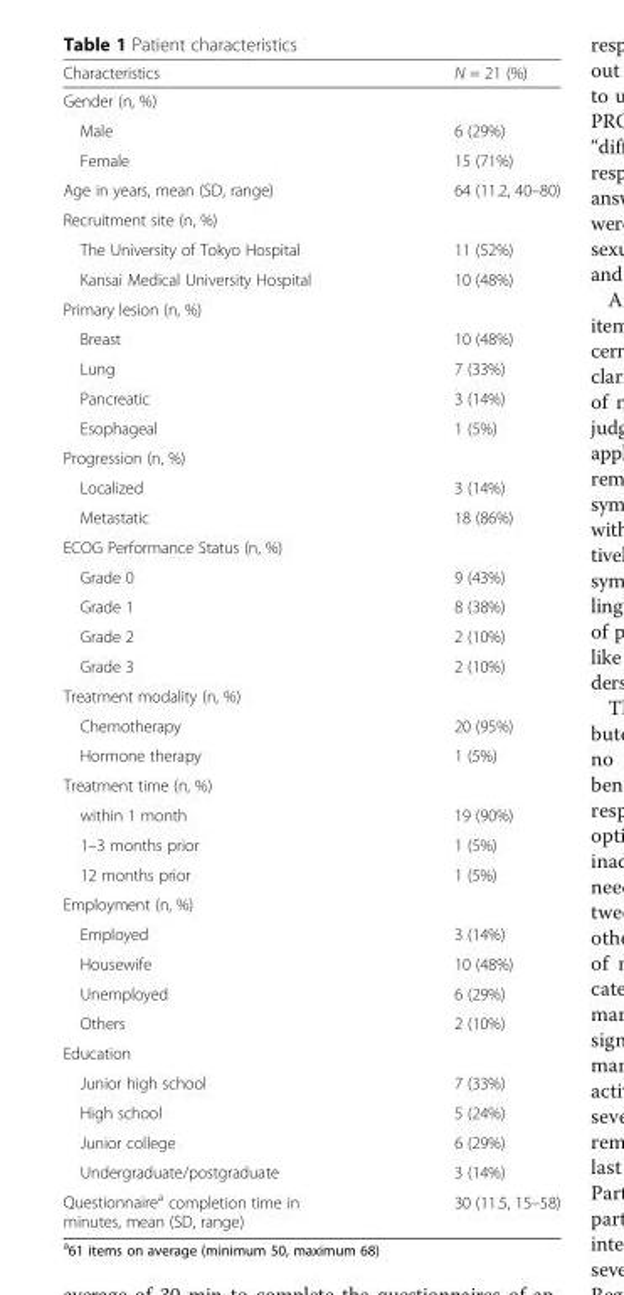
<table><thead><tr><td>Characteristics</td><td>N = 21 (%)</td></tr></thead><tbody><tr><td colspan="2">Gender (n, %)</td></tr><tr><td>Male</td><td>6 (29%)</td></tr><tr><td>Female</td><td>15 (71%)</td></tr><tr><td>Age in years, mean (SD, range)</td><td>64 (11.2, 40–80)</td></tr><tr><td colspan="2">Recruitment site (n, %)</td></tr><tr><td>The University of Tokyo Hospital</td><td>11 (52%)</td></tr><tr><td>Kansai Medical University Hospital</td><td>10 (48%)</td></tr><tr><td colspan="2">Primary lesion (n, %)</td></tr><tr><td>Breast</td><td>10 (48%)</td></tr><tr><td>Lung</td><td>7 (33%)</td></tr><tr><td>Pancreatic</td><td>3 (14%)</td></tr><tr><td>Esophageal</td><td>1 (5%)</td></tr><tr><td colspan="2">Progression (n, %)</td></tr><tr><td>Localized</td><td>3 (14%)</td></tr><tr><td>Metastatic</td><td>18 (86%)</td></tr><tr><td colspan="2">ECOG Performance Status (n, %)</td></tr><tr><td>Grade 0</td><td>9 (43%)</td></tr><tr><td>Grade 1</td><td>8 (38%)</td></tr><tr><td>Grade 2</td><td>2 (10%)</td></tr><tr><td>Grade 3</td><td>2 (10%)</td></tr><tr><td colspan="2">Treatment modality (n, %)</td></tr><tr><td>Chemotherapy</td><td>20 (95%)</td></tr><tr><td>Hormone therapy</td><td>1 (5%)</td></tr><tr><td colspan="2">Treatment time (n, %)</td></tr><tr><td>within 1 month</td><td>19 (90%)</td></tr><tr><td>1–3 months prior</td><td>1 (5%)</td></tr><tr><td>12 months prior</td><td>1 (5%)</td></tr><tr><td colspan="2">Employment (n, %)</td></tr><tr><td>Employed</td><td>3 (14%)</td></tr><tr><td>Housewife</td><td>10 (48%)</td></tr><tr><td>Unemployed</td><td>6 (29%)</td></tr><tr><td>Others</td><td>2 (10%)</td></tr><tr><td colspan="2">Education</td></tr><tr><td>Junior high school</td><td>7 (33%)</td></tr><tr><td>High school</td><td>5 (24%)</td></tr><tr><td>Junior college</td><td>6 (29%)</td></tr><tr><td>Undergraduate/postgraduate</td><td>3 (14%)</td></tr><tr><td>Questionnaire<sup>a</sup> completion time in minutes, mean (SD, range)</td><td>30 (11.5, 15–58)</td></tr></tbody></table>